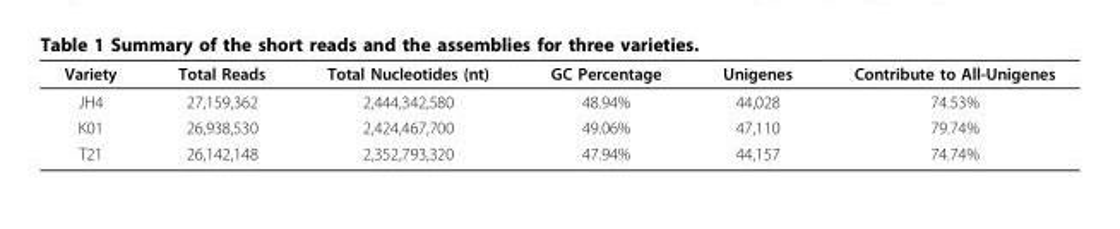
<table><thead><tr><td>Variety</td><td>Total Reads</td><td>Total Nucleotides (nt)</td><td>GC Percentage</td><td>Unigenes</td><td>Contribute to All-Unigenes</td></tr></thead><tbody><tr><td>JH4</td><td>27,159,362</td><td>2,444,342,580</td><td>48.94%</td><td>44,028</td><td>74.53%</td></tr><tr><td>K01</td><td>26,938,530</td><td>2,424,467,700</td><td>49.06%</td><td>47,110</td><td>79.74%</td></tr><tr><td>T21</td><td>26,142,148</td><td>2,352,793,320</td><td>47.94%</td><td>44,157</td><td>74.74%</td></tr></tbody></table>